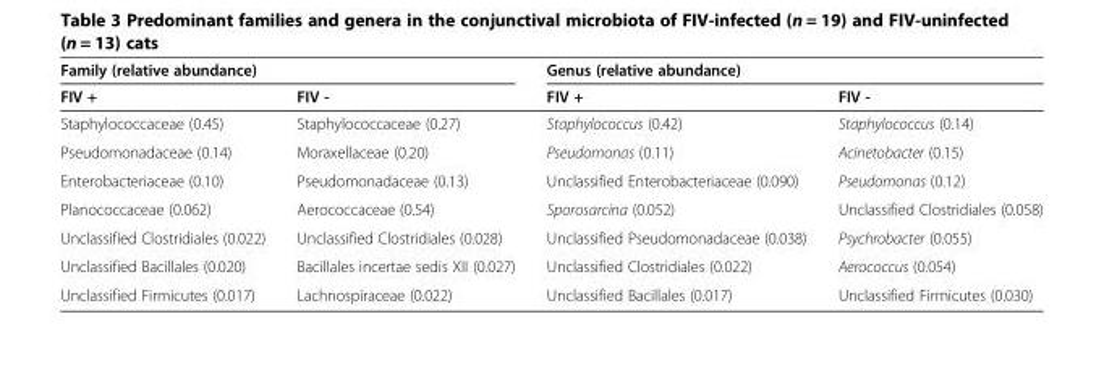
<table><thead><tr><td colspan="2">Family (relative abundance)</td><td colspan="2">Genus (relative abundance)</td></tr><tr><td>FIV +</td><td>FIV -</td><td>FIV +</td><td>FIV -</td></tr></thead><tbody><tr><td>Staphylococcaceae (0.45)</td><td>Staphylococcaceae (0.27)</td><td>Staphylococcus (0.42)</td><td>Staphylococcus (0.14)</td></tr><tr><td>Pseudomonadaceae (0.14)</td><td>Moraxellaceae (0.20)</td><td>Pseudomonas (0.11)</td><td>Acinetobacter (0.15)</td></tr><tr><td>Enterobacteriaceae (0.10)</td><td>Pseudomonadaceae (0.13)</td><td>Unclassified Enterobacteriaceae (0.090)</td><td>Pseudomonas (0.12)</td></tr><tr><td>Planococcaceae (0.062)</td><td>Aerococcaceae (0.54)</td><td>Sporosarcina (0.052)</td><td>Unclassified Clostridiales (0.058)</td></tr><tr><td>Unclassified Clostridiales (0.022)</td><td>Unclassified Clostridiales (0.028)</td><td>Unclassified Pseudomonadaceae (0.038)</td><td>Psychrobacter (0.055)</td></tr><tr><td>Unclassified Bacillales (0.020)</td><td>Bacillales incertae sedis XII (0.027)</td><td>Unclassified Clostridiales (0.022)</td><td>Aerococcus (0.054)</td></tr><tr><td>Unclassified Firmicutes (0.017)</td><td>Lachnospiraceae (0.022)</td><td>Unclassified Bacillales (0.017)</td><td>Unclassified Firmicutes (0.030)</td></tr></tbody></table>